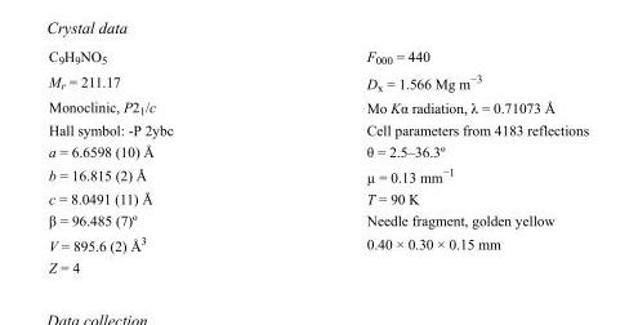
<table><tbody><tr><td>C<sub>9</sub>H<sub>9</sub>NO<sub>5</sub></td><td>F000 = 440</td></tr><tr><td>M<sub>r</sub> = 211.17</td><td>D<sub>x</sub> = 1.566 Mg m<sup>−3</sup></td></tr><tr><td>Monoclinic, P2<sub>1</sub>/c</td><td>Mo Kα radiation, λ = 0.71073 Å</td></tr><tr><td>Hall symbol: -P 2ybc</td><td>Cell parameters from 4183 reflections</td></tr><tr><td>a = 6.6598 (10) Å</td><td>θ = 2.5–36.3º</td></tr><tr><td>b = 16.815 (2) Å</td><td>µ = 0.13 mm<sup>−1</sup></td></tr><tr><td>c = 8.0491 (11) Å</td><td>T = 90 K</td></tr><tr><td>β = 96.485 (7)º</td><td>Needle fragment, golden yellow</td></tr><tr><td>V = 895.6 (2) Å<sup>3</sup></td><td>0.40 × 0.30 × 0.15 mm</td></tr><tr><td>Z = 4</td><td></td></tr></tbody></table>